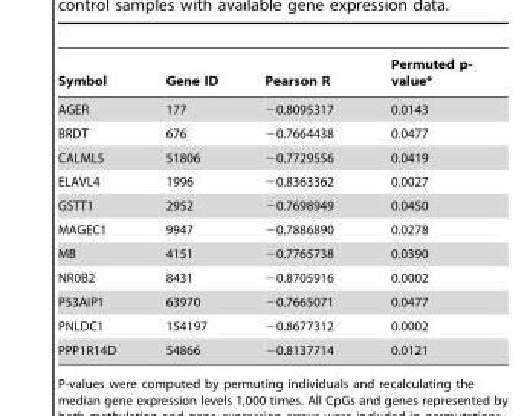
<table><thead><tr><td>Symbol</td><td>Gene ID</td><td>Pearson R</td><td>Permuted p- value*</td></tr></thead><tbody><tr><td>AGER</td><td>177</td><td>−0.8095317</td><td>0.0143</td></tr><tr><td>BRDT</td><td>676</td><td>−0.7664438</td><td>0.0477</td></tr><tr><td>CALML5</td><td>51806</td><td>−0.7729556</td><td>0.0419</td></tr><tr><td>ELAVL4</td><td>1996</td><td>−0.8363362</td><td>0.0027</td></tr><tr><td>GSTT1</td><td>2952</td><td>−0.7698949</td><td>0.0450</td></tr><tr><td>MAGEC1</td><td>9947</td><td>−0.7886890</td><td>0.0278</td></tr><tr><td>MB</td><td>4151</td><td>−0.7765738</td><td>0.0390</td></tr><tr><td>NR0B2</td><td>8431</td><td>−0.8705916</td><td>0.0002</td></tr><tr><td>P53AIP1</td><td>63970</td><td>−0.7665071</td><td>0.0477</td></tr><tr><td>PNLDC1</td><td>154197</td><td>−0.8677312</td><td>0.0002</td></tr><tr><td>PPP1R14D</td><td>54866</td><td>−0.8137714</td><td>0.0121</td></tr></tbody></table>